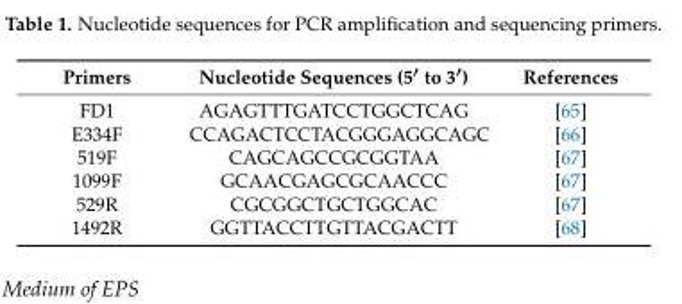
<table><thead><tr><td>Primers</td><td>Nucleotide Sequences (5′ to 3′)</td><td>References</td></tr></thead><tbody><tr><td>FD1</td><td>AGAGTTTGATCCTGGCTCAG</td><td>[65]</td></tr><tr><td>E334F</td><td>CCAGACTCCTACGGGAGGCAGC</td><td>[66]</td></tr><tr><td>519F</td><td>CAGCAGCCGCGGTAA</td><td>[67]</td></tr><tr><td>1099F</td><td>GCAACGAGCGCAACCC</td><td>[67]</td></tr><tr><td>529R</td><td>CGCGGCTGCTGGCAC</td><td>[67]</td></tr><tr><td>1492R</td><td>GGTTACCTTGTTACGACTT</td><td>[68]</td></tr></tbody></table>